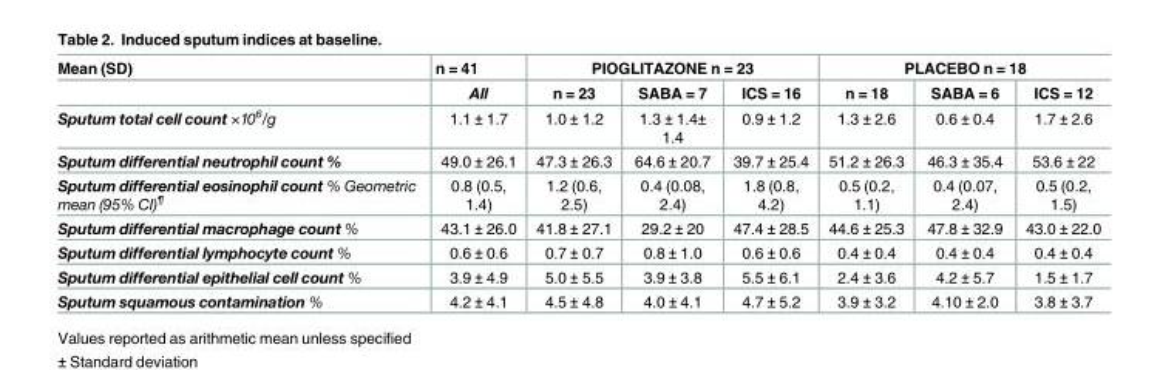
<table><thead><tr><td rowspan="2">Mean (SD)</td><td rowspan="2">n = 41 All</td><td colspan="3">PIOGLITAZONE n = 23</td><td colspan="3">PLACEBO n = 18</td></tr><tr><td>n = 23</td><td>SABA = 7</td><td>ICS = 16</td><td>n = 18</td><td>SABA = 6</td><td>ICS = 12</td></tr></thead><tbody><tr><td>Sputum total cell count ×10<sup>6</sup>/g</td><td>1.1 ± 1.7</td><td>1.0 ± 1.2</td><td>1.3 ± 1.4± 1.4</td><td>0.9 ± 1.2</td><td>1.3 ± 2.6</td><td>0.6 ± 0.4</td><td>1.7 ± 2.6</td></tr><tr><td>Sputum differential neutrophil count %</td><td>49.0 ± 26.1</td><td>47.3 ± 26.3</td><td>64.6 ± 20.7</td><td>39.7 ± 25.4</td><td>51.2 ± 26.3</td><td>46.3 ± 35.4</td><td>53.6 ± 22</td></tr><tr><td>Sputum differential eosinophil count % Geometric mean (95% CI)<sup>¶</sup></td><td>0.8 (0.5, 1.4)</td><td>1.2 (0.6, 2.5)</td><td>0.4 (0.08, 2.4)</td><td>1.8 (0.8, 4.2)</td><td>0.5 (0.2, 1.1)</td><td>0.4 (0.07, 2.4)</td><td>0.5 (0.2, 1.5)</td></tr><tr><td>Sputum differential macrophage count %</td><td>43.1 ± 26.0</td><td>41.8 ± 27.1</td><td>29.2 ± 20</td><td>47.4 ± 28.5</td><td>44.6 ± 25.3</td><td>47.8 ± 32.9</td><td>43.0 ± 22.0</td></tr><tr><td>Sputum differential lymphocyte count %</td><td>0.6 ± 0.6</td><td>0.7 ± 0.7</td><td>0.8 ± 1.0</td><td>0.6 ± 0.6</td><td>0.4 ± 0.4</td><td>0.4 ± 0.4</td><td>0.4 ± 0.4</td></tr><tr><td>Sputum differential epithelial cell count %</td><td>3.9 ± 4.9</td><td>5.0 ± 5.5</td><td>3.9 ± 3.8</td><td>5.5 ± 6.1</td><td>2.4 ± 3.6</td><td>4.2 ± 5.7</td><td>1.5 ± 1.7</td></tr><tr><td>Sputum squamous contamination %</td><td>4.2 ± 4.1</td><td>4.5 ± 4.8</td><td>4.0 ± 4.1</td><td>4.7 ± 5.2</td><td>3.9 ± 3.2</td><td>4.10 ± 2.0</td><td>3.8 ± 3.7</td></tr></tbody></table>